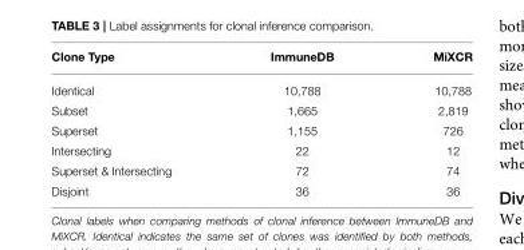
<table><thead><tr><td>Clone Type</td><td>ImmuneDB</td><td>MiXCR</td></tr></thead><tbody><tr><td>Identical</td><td>10,788</td><td>10,788</td></tr><tr><td>Subset</td><td>1,665</td><td>2,819</td></tr><tr><td>Superset</td><td>1,155</td><td>726</td></tr><tr><td>Intersecting</td><td>22</td><td>12</td></tr><tr><td>Superset &amp; Intersecting</td><td>72</td><td>74</td></tr><tr><td>Disjoint</td><td>36</td><td>36</td></tr></tbody></table>